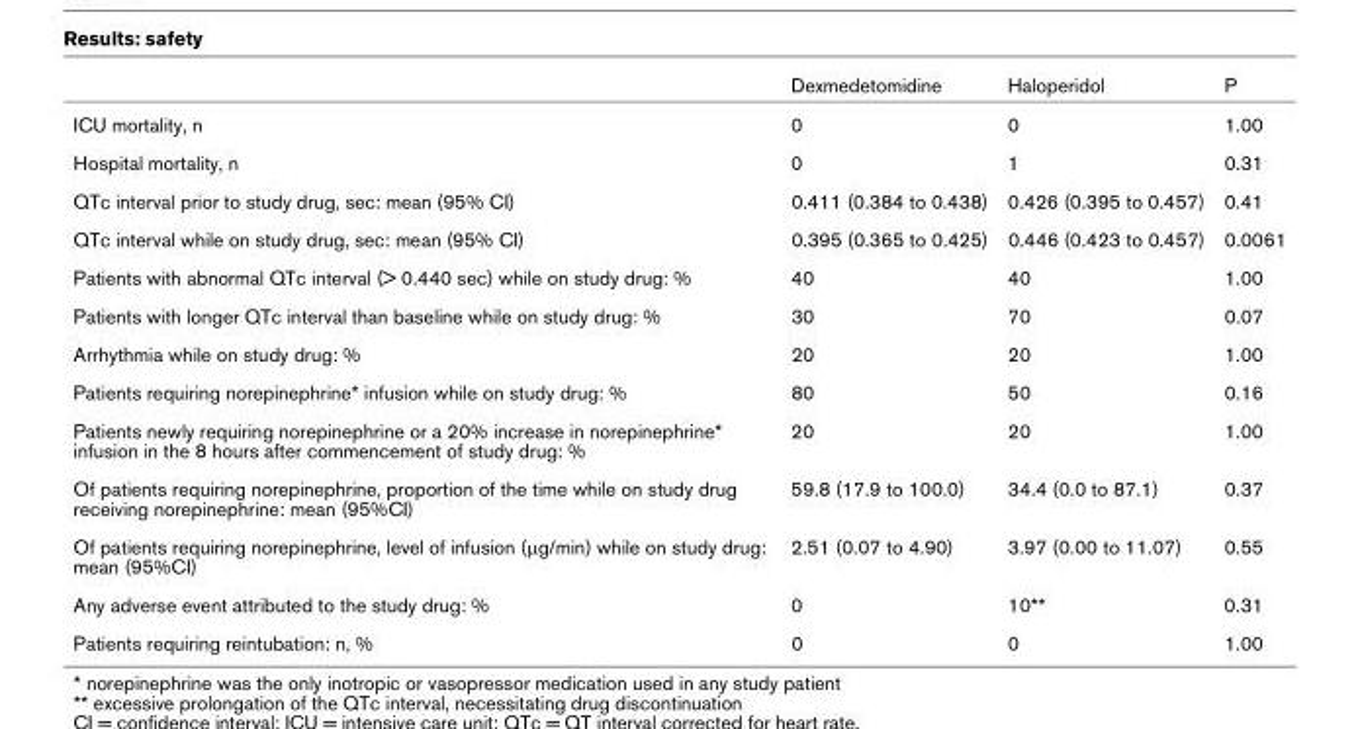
<table><thead><tr><td></td><td>Dexmedetomidine</td><td>Haloperidol</td><td>P</td></tr></thead><tbody><tr><td>ICU mortality, n</td><td>0</td><td>0</td><td>1.00</td></tr><tr><td>Hospital mortality, n</td><td>0</td><td>1</td><td>0.31</td></tr><tr><td>QTc interval prior to study drug, sec: mean (95% CI)</td><td>0.411 (0.384 to 0.438)</td><td>0.426 (0.395 to 0.457)</td><td>0.41</td></tr><tr><td>QTc interval while on study drug, sec: mean (95% CI)</td><td>0.395 (0.365 to 0.425)</td><td>0.446 (0.423 to 0.457)</td><td>0.0061</td></tr><tr><td>Patients with abnormal QTc interval (&gt; 0.440 sec) while on study drug: %</td><td>40</td><td>40</td><td>1.00</td></tr><tr><td>Patients with longer QTc interval than baseline while on study drug: %</td><td>30</td><td>70</td><td>0.07</td></tr><tr><td>Arrhythmia while on study drug: %</td><td>20</td><td>20</td><td>1.00</td></tr><tr><td>Patients requiring norepinephrine* infusion while on study drug: %</td><td>80</td><td>50</td><td>0.16</td></tr><tr><td>Patients newly requiring norepinephrine or a 20% increase in norepinephrine* infusion in the 8 hours after commencement of study drug: %</td><td>20</td><td>20</td><td>1.00</td></tr><tr><td>Of patients requiring norepinephrine, proportion of the time while on study drug receiving norepinephrine: mean (95%CI)</td><td>59.8 (17.9 to 100.0)</td><td>34.4 (0.0 to 87.1)</td><td>0.37</td></tr><tr><td>Of patients requiring norepinephrine, level of infusion (μg/min) while on study drug: mean (95%CI)</td><td>2.51 (0.07 to 4.90)</td><td>3.97 (0.00 to 11.07)</td><td>0.55</td></tr><tr><td>Any adverse event attributed to the study drug: %</td><td>0</td><td>10**</td><td>0.31</td></tr><tr><td>Patients requiring reintubation: n, %</td><td>0</td><td>0</td><td>1.00</td></tr></tbody></table>